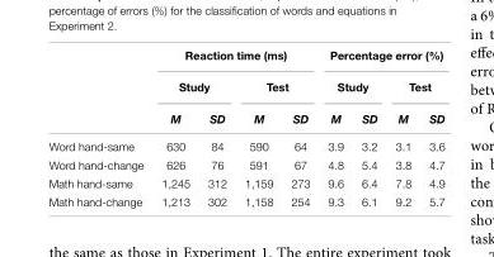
<table><thead><tr><td rowspan="3"></td><td colspan="4">Reaction time (ms)</td><td colspan="4">Percentage error (%)</td></tr><tr><td colspan="2">Study</td><td colspan="2">Test</td><td colspan="2">Study</td><td colspan="2">Test</td></tr><tr><td>M</td><td>SD</td><td>M</td><td>SD</td><td>M</td><td>SD</td><td>M</td><td>SD</td></tr></thead><tbody><tr><td>Word hand-same</td><td>630</td><td>84</td><td>590</td><td>64</td><td>3.9</td><td>3.2</td><td>3.1</td><td>3.6</td></tr><tr><td>Word hand-change</td><td>626</td><td>76</td><td>591</td><td>67</td><td>4.8</td><td>5.4</td><td>3.8</td><td>4.7</td></tr><tr><td>Math hand-same</td><td>1,245</td><td>312</td><td>1,159</td><td>273</td><td>9.6</td><td>6.4</td><td>7.8</td><td>4.9</td></tr><tr><td>Math hand-change</td><td>1,213</td><td>302</td><td>1,158</td><td>254</td><td>9.3</td><td>6.1</td><td>9.2</td><td>5.7</td></tr></tbody></table>